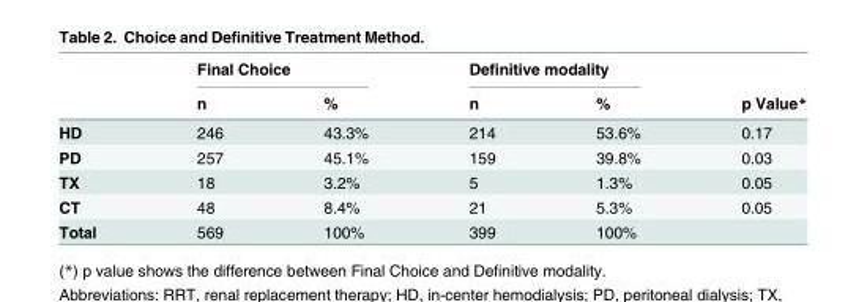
<table><thead><tr><td rowspan="2"></td><td colspan="2">Final Choice</td><td colspan="2">Definitive modality</td><td rowspan="2">p Value*</td></tr><tr><td>n</td><td>%</td><td>n</td><td>%</td></tr></thead><tbody><tr><td>HD</td><td>246</td><td>43.3%</td><td>214</td><td>53.6%</td><td>0.17</td></tr><tr><td>PD</td><td>257</td><td>45.1%</td><td>159</td><td>39.8%</td><td>0.03</td></tr><tr><td>TX</td><td>18</td><td>3.2%</td><td>5</td><td>1.3%</td><td>0.05</td></tr><tr><td>CT</td><td>48</td><td>8.4%</td><td>21</td><td>5.3%</td><td>0.05</td></tr><tr><td>Total</td><td>569</td><td>100%</td><td>399</td><td>100%</td><td></td></tr></tbody></table>